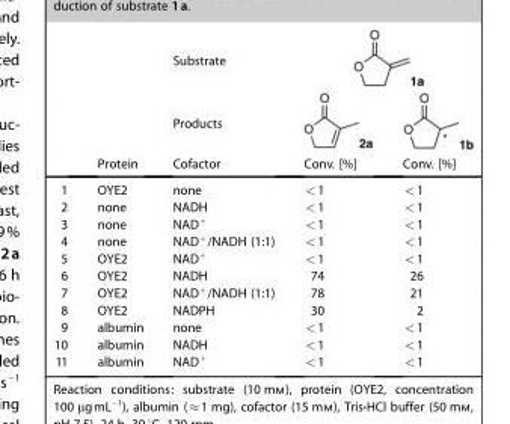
<table><thead><tr><td rowspan="3"></td><td rowspan="3">Protein</td><td rowspan="3">Substrate Products Cofactor</td><td rowspan="3">Conv. [%]</td><td rowspan="3">Conv. [%]</td></tr><tr></tr><tr></tr></thead><tbody><tr><td>1</td><td>OYE2</td><td>none</td><td>&lt;1</td><td>&lt;1</td></tr><tr><td>2</td><td>none</td><td>NADH</td><td>&lt;1</td><td>&lt;1</td></tr><tr><td>3</td><td>none</td><td>NAD<sup>+</sup></td><td>&lt;1</td><td>&lt;1</td></tr><tr><td>4</td><td>none</td><td>NAD<sup>+</sup>/NADH (1:1)</td><td>&lt;1</td><td>&lt;1</td></tr><tr><td>5</td><td>OYE2</td><td>NAD<sup>+</sup></td><td>&lt;1</td><td>&lt;1</td></tr><tr><td>6</td><td>OYE2</td><td>NADH</td><td>74</td><td>26</td></tr><tr><td>7</td><td>OYE2</td><td>NAD<sup>+</sup>/NADH (1:1)</td><td>78</td><td>21</td></tr><tr><td>8</td><td>OYE2</td><td>NADPH</td><td>30</td><td>2</td></tr><tr><td>9</td><td>albumin</td><td>none</td><td>&lt;1</td><td>&lt;1</td></tr><tr><td>10</td><td>albumin</td><td>NADH</td><td>&lt;1</td><td>&lt;1</td></tr><tr><td>11</td><td>albumin</td><td>NAD<sup>+</sup></td><td>&lt;1</td><td>&lt;1</td></tr></tbody></table>